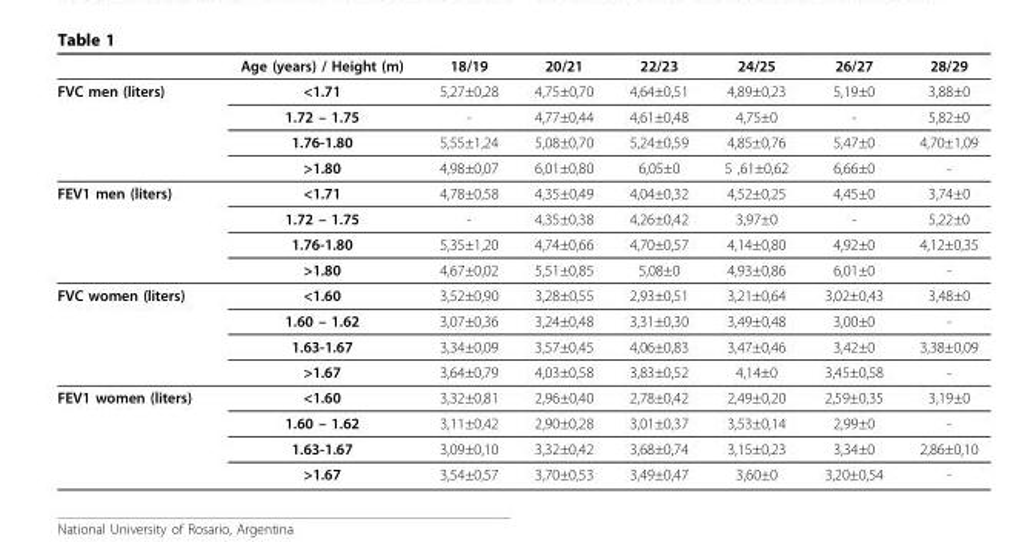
<table><thead><tr><td></td><td>Age (years) / Height (m)</td><td>18/19</td><td>20/21</td><td>22/23</td><td>24/25</td><td>26/27</td><td>28/29</td></tr></thead><tbody><tr><td rowspan="4">FVC men (liters)</td><td>&lt;1.71</td><td>5,27±0,28</td><td>4,75±0,70</td><td>4,64±0,51</td><td>4,89±0,23</td><td>5,19±0</td><td>3,88±0</td></tr><tr><td>1.72 – 1.75</td><td>-</td><td>4,77±0,44</td><td>4,61±0,48</td><td>4,75±0</td><td>-</td><td>5,82±0</td></tr><tr><td>1.76-1.80</td><td>5,55±1,24</td><td>5,08±0,70</td><td>5,24±0,59</td><td>4,85±0,76</td><td>5,47±0</td><td>4,70±1,09</td></tr><tr><td>&gt;1.80</td><td>4,98±0,07</td><td>6,01±0,80</td><td>6,05±0</td><td>5 ,61±0,62</td><td>6,66±0</td><td>-</td></tr><tr><td rowspan="4">FEV1 men (liters)</td><td>&lt;1.71</td><td>4,78±0,58</td><td>4,35±0,49</td><td>4,04±0,32</td><td>4,52±0,25</td><td>4,45±0</td><td>3,74±0</td></tr><tr><td>1.72 – 1.75</td><td>-</td><td>4,35±0,38</td><td>4,26±0,42</td><td>3,97±0</td><td>-</td><td>5,22±0</td></tr><tr><td>1.76-1.80</td><td>5,35±1,20</td><td>4,74±0,66</td><td>4,70±0,57</td><td>4,14±0,80</td><td>4,92±0</td><td>4,12±0,35</td></tr><tr><td>&gt;1.80</td><td>4,67±0,02</td><td>5,51±0,85</td><td>5,08±0</td><td>4,93±0,86</td><td>6,01±0</td><td>-</td></tr><tr><td rowspan="4">FVC women (liters)</td><td>&lt;1.60</td><td>3,52±0,90</td><td>3,28±0,55</td><td>2,93±0,51</td><td>3,21±0,64</td><td>3,02±0,43</td><td>3,48±0</td></tr><tr><td>1.60 – 1.62</td><td>3,07±0,36</td><td>3,24±0,48</td><td>3,31±0,30</td><td>3,49±0,48</td><td>3,00±0</td><td>-</td></tr><tr><td>1.63-1.67</td><td>3,34±0,09</td><td>3,57±0,45</td><td>4,06±0,83</td><td>3,47±0,46</td><td>3,42±0</td><td>3,38±0,09</td></tr><tr><td>&gt;1.67</td><td>3,64±0,79</td><td>4,03±0,58</td><td>3,83±0,52</td><td>4,14±0</td><td>3,45±0,58</td><td>-</td></tr><tr><td rowspan="4">FEV1 women (liters)</td><td>&lt;1.60</td><td>3,32±0,81</td><td>2,96±0,40</td><td>2,78±0,42</td><td>2,49±0,20</td><td>2,59±0,35</td><td>3,19±0</td></tr><tr><td>1.60 – 1.62</td><td>3,11±0,42</td><td>2,90±0,28</td><td>3,01±0,37</td><td>3,53±0,14</td><td>2,99±0</td><td>-</td></tr><tr><td>1.63-1.67</td><td>3,09±0,10</td><td>3,32±0,42</td><td>3,68±0,74</td><td>3,15±0,23</td><td>3,34±0</td><td>2,86±0,10</td></tr><tr><td>&gt;1.67</td><td>3,54±0,57</td><td>3,70±0,53</td><td>3,49±0,47</td><td>3,60±0</td><td>3,20±0,54</td><td>-</td></tr></tbody></table>